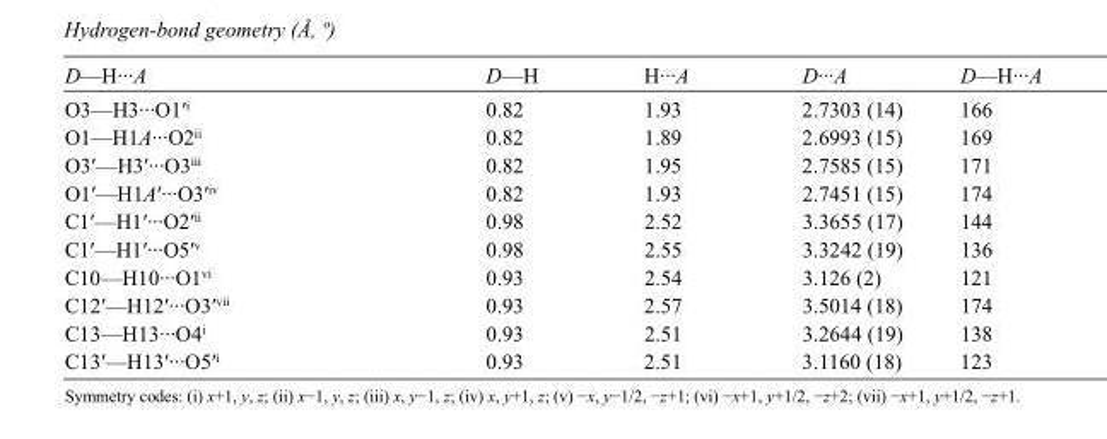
<table><tbody><tr><td>D—H···A</td><td>D—H</td><td>H···A</td><td>D···A</td><td>D—H···A</td></tr><tr><td>O3—H3···O1′<sup>i</sup></td><td>0.82</td><td>1.93</td><td>2.7303 (14)</td><td>166</td></tr><tr><td>O1—H1A···O2<sup>ii</sup></td><td>0.82</td><td>1.89</td><td>2.6993 (15)</td><td>169</td></tr><tr><td>O3′—H3′···O3<sup>iii</sup></td><td>0.82</td><td>1.95</td><td>2.7585 (15)</td><td>171</td></tr><tr><td>O1′—H1A′···O3′<sup>iv</sup></td><td>0.82</td><td>1.93</td><td>2.7451 (15)</td><td>174</td></tr><tr><td>C1′—H1′···O2′<sup>ii</sup></td><td>0.98</td><td>2.52</td><td>3.3655 (17)</td><td>144</td></tr><tr><td>C1′—H1′···O5′<sup>v</sup></td><td>0.98</td><td>2.55</td><td>3.3242 (19)</td><td>136</td></tr><tr><td>C10—H10···O1<sup>vi</sup></td><td>0.93</td><td>2.54</td><td>3.126 (2)</td><td>121</td></tr><tr><td>C12′—H12′···O3′<sup>vii</sup></td><td>0.93</td><td>2.57</td><td>3.5014 (18)</td><td>174</td></tr><tr><td>C13—H13···O4<sup>i</sup></td><td>0.93</td><td>2.51</td><td>3.2644 (19)</td><td>138</td></tr><tr><td>C13′—H13′···O5′<sup>i</sup></td><td>0.93</td><td>2.51</td><td>3.1160 (18)</td><td>123</td></tr></tbody></table>